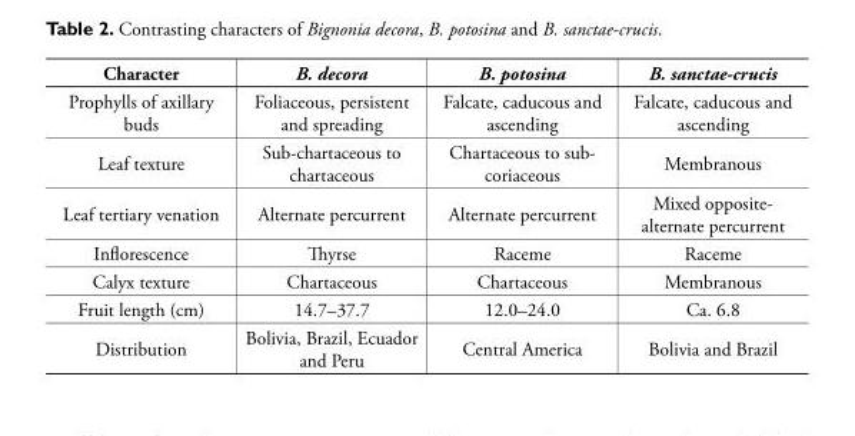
<table><thead><tr><td>Character</td><td>B. decora</td><td>B. potosina</td><td>B. sanctae-crucis</td></tr></thead><tbody><tr><td>Prophylls of axillary buds</td><td>Foliaceous, persistent and spreading</td><td>Falcate, caducous and ascending</td><td>Falcate, caducous and ascending</td></tr><tr><td>Leaf texture</td><td>Sub-chartaceous to chartaceous</td><td>Chartaceous to sub- coriaceous</td><td>Membranous</td></tr><tr><td>Leaf tertiary venation</td><td>Alternate percurrent</td><td>Alternate percurrent</td><td>Mixed opposite- alternate percurrent</td></tr><tr><td>Infl orescence</td><td>Th yrse</td><td>Raceme</td><td>Raceme</td></tr><tr><td>Calyx texture</td><td>Chartaceous</td><td>Chartaceous</td><td>Membranous</td></tr><tr><td>Fruit length (cm)</td><td>14.7–37.7</td><td>12.0–24.0</td><td>Ca. 6.8</td></tr><tr><td>Distribution</td><td>Bolivia, Brazil, Ecuador and Peru</td><td>Central America</td><td>Bolivia and Brazil</td></tr></tbody></table>